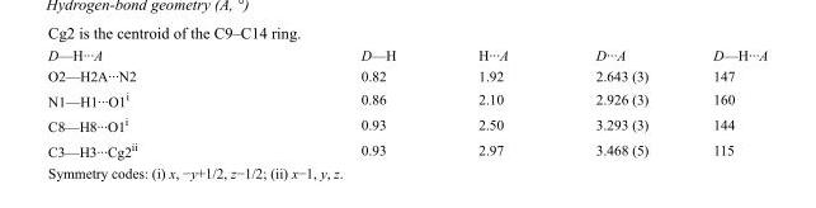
<table><tbody><tr><td>D—H···A</td><td>D—H</td><td>H···A</td><td>D···A</td><td>D—H···A</td></tr><tr><td>O2—H2A···N2</td><td>0.82</td><td>1.92</td><td>2.643 (3)</td><td>147</td></tr><tr><td>N1—H1···O1<sup>i</sup></td><td>0.86</td><td>2.10</td><td>2.926 (3)</td><td>160</td></tr><tr><td>C8—H8···O1<sup>i</sup></td><td>0.93</td><td>2.50</td><td>3.293 (3)</td><td>144</td></tr><tr><td>C3—H3···Cg2<sup>ii</sup></td><td>0.93</td><td>2.97</td><td>3.468 (5)</td><td>115</td></tr></tbody></table>